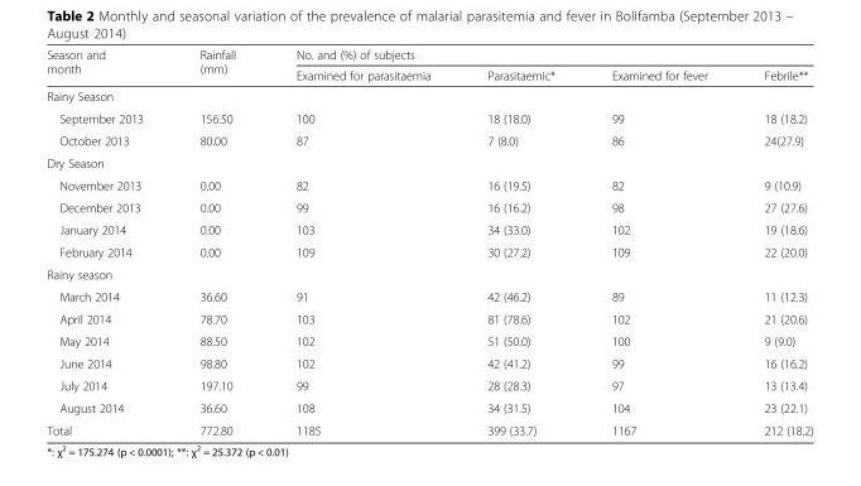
<table><thead><tr><td rowspan="2">Season and month</td><td rowspan="2">Rainfall (mm)</td><td colspan="4">No. and (%) of subjects</td></tr><tr><td>Examined for parasitaemia</td><td>Parasitaemic*</td><td>Examined for fever</td><td>Febrile**</td></tr></thead><tbody><tr><td colspan="6">Rainy Season</td></tr><tr><td>September 2013</td><td>156.50</td><td>100</td><td>18 (18.0)</td><td>99</td><td>18 (18.2)</td></tr><tr><td>October 2013</td><td>80.00</td><td>87</td><td>7 (8.0)</td><td>86</td><td>24(27.9)</td></tr><tr><td colspan="6">Dry Season</td></tr><tr><td>November 2013</td><td>0.00</td><td>82</td><td>16 (19.5)</td><td>82</td><td>9 (10.9)</td></tr><tr><td>December 2013</td><td>0.00</td><td>99</td><td>16 (16.2)</td><td>98</td><td>27 (27.6)</td></tr><tr><td>January 2014</td><td>0.00</td><td>103</td><td>34 (33.0)</td><td>102</td><td>19 (18.6)</td></tr><tr><td>February 2014</td><td>0.00</td><td>109</td><td>30 (27.2)</td><td>109</td><td>22 (20.0)</td></tr><tr><td colspan="6">Rainy season</td></tr><tr><td>March 2014</td><td>36.60</td><td>91</td><td>42 (46.2)</td><td>89</td><td>11 (12.3)</td></tr><tr><td>April 2014</td><td>78.70</td><td>103</td><td>81 (78.6)</td><td>102</td><td>21 (20.6)</td></tr><tr><td>May 2014</td><td>88.50</td><td>102</td><td>51 (50.0)</td><td>100</td><td>9 (9.0)</td></tr><tr><td>June 2014</td><td>98.80</td><td>102</td><td>42 (41.2)</td><td>99</td><td>16 (16.2)</td></tr><tr><td>July 2014</td><td>197.10</td><td>99</td><td>28 (28.3)</td><td>97</td><td>13 (13.4)</td></tr><tr><td>August 2014</td><td>36.60</td><td>108</td><td>34 (31.5)</td><td>104</td><td>23 (22.1)</td></tr><tr><td>Total</td><td>772.80</td><td>1185</td><td>399 (33.7)</td><td>1167</td><td>212 (18.2)</td></tr></tbody></table>